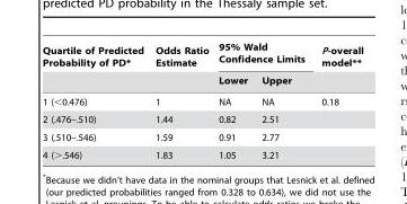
<table><thead><tr><td rowspan="2">Quartile of Predicted Probability of PD*</td><td rowspan="2">Odds Ratio Estimate</td><td colspan="2">95% Wald Confidence Limits</td><td rowspan="2">P-overall model**</td></tr><tr><td>Lower</td><td>Upper</td></tr></thead><tbody><tr><td>1 (&lt;0.476)</td><td>1</td><td>NA</td><td>NA</td><td>0.18</td></tr><tr><td>2 (.476–.510)</td><td>1.44</td><td>0.82</td><td>2.51</td><td></td></tr><tr><td>3 (.510–.546)</td><td>1.59</td><td>0.91</td><td>2.77</td><td></td></tr><tr><td>4 (&gt;.546)</td><td>1.83</td><td>1.05</td><td>3.21</td><td></td></tr></tbody></table>